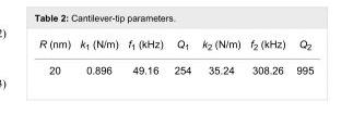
<table><tbody><tr><td>R (nm)</td><td>k<sub>1</sub> (N/m)</td><td>f<sub>1</sub> (kHz)</td><td>Q<sub>1</sub></td><td>k<sub>2</sub> (N/m)</td><td>f<sub>2</sub> (kHz)</td><td>Q<sub>2</sub></td></tr><tr><td>20</td><td>0.896</td><td>49.16</td><td>254</td><td>35.24</td><td>308.26</td><td>995</td></tr></tbody></table>